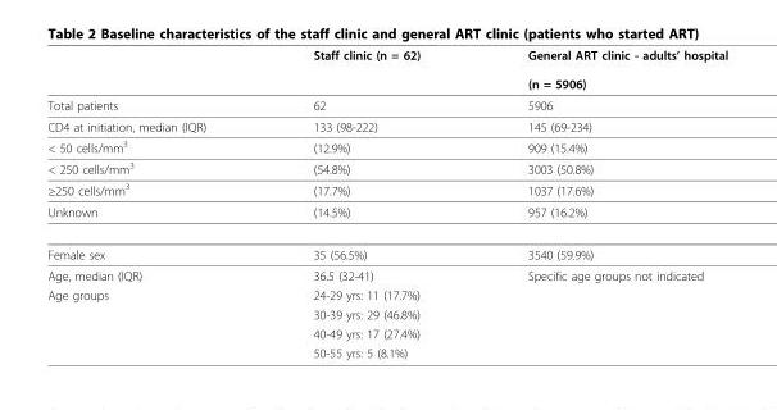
<table><thead><tr><td></td><td>Staff clinic (n = 62)</td><td>General ART clinic - adults’ hospital (n = 5906)</td></tr></thead><tbody><tr><td>Total patients</td><td>62</td><td>5906</td></tr><tr><td>CD4 at initiation, median (IQR)</td><td>133 (98-222)</td><td>145 (69-234)</td></tr><tr><td>&lt; 50 cells/mm3</td><td>(12.9%)</td><td>909 (15.4%)</td></tr><tr><td>&lt; 250 cells/mm3</td><td>(54.8%)</td><td>3003 (50.8%)</td></tr><tr><td>≥250 cells/mm3</td><td>(17.7%)</td><td>1037 (17.6%)</td></tr><tr><td>Unknown</td><td>(14.5%)</td><td>957 (16.2%)</td></tr><tr><td>Female sex</td><td>35 (56.5%)</td><td>3540 (59.9%)</td></tr><tr><td>Age, median (IQR)</td><td>36.5 (32-41)</td><td>Specific age groups not indicated</td></tr><tr><td rowspan="4">Age groups</td><td>24-29 yrs: 11 (17.7%)</td><td></td></tr><tr><td>30-39 yrs: 29 (46.8%)</td><td></td></tr><tr><td>40-49 yrs: 17 (27.4%)</td><td></td></tr><tr><td>50-55 yrs: 5 (8.1%)</td><td></td></tr></tbody></table>